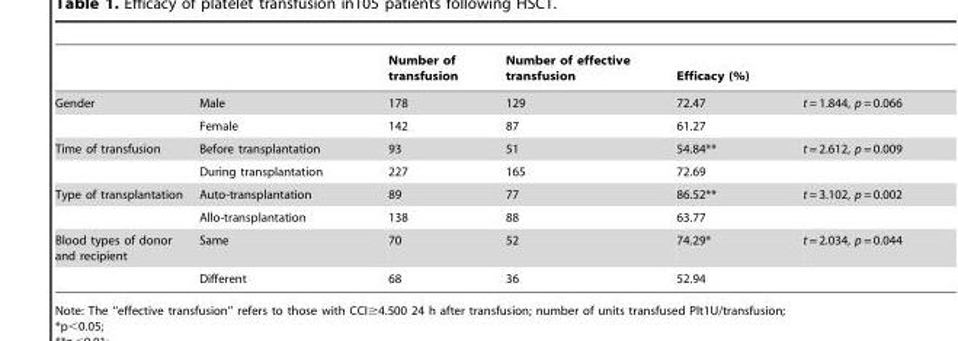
<table><thead><tr><td></td><td></td><td>Number of transfusion</td><td>Number of effective transfusion</td><td>Efficacy (%)</td><td></td></tr></thead><tbody><tr><td rowspan="2">Gender</td><td>Male</td><td>178</td><td>129</td><td>72.47</td><td>t = 1.844, p = 0.066</td></tr><tr><td>Female</td><td>142</td><td>87</td><td>61.27</td><td></td></tr><tr><td rowspan="2">Time of transfusion</td><td>Before transplantation</td><td>93</td><td>51</td><td>54.84**</td><td>t = 2.612, p = 0.009</td></tr><tr><td>During transplantation</td><td>227</td><td>165</td><td>72.69</td><td></td></tr><tr><td rowspan="2">Type of transplantation</td><td>Auto-transplantation</td><td>89</td><td>77</td><td>86.52**</td><td>t = 3.102, p = 0.002</td></tr><tr><td>Allo-transplantation</td><td>138</td><td>88</td><td>63.77</td><td></td></tr><tr><td rowspan="2">Blood types of donor and recipient</td><td>Same</td><td>70</td><td>52</td><td>74.29*</td><td>t = 2.034, p = 0.044</td></tr><tr><td>Different</td><td>68</td><td>36</td><td>52.94</td><td></td></tr></tbody></table>